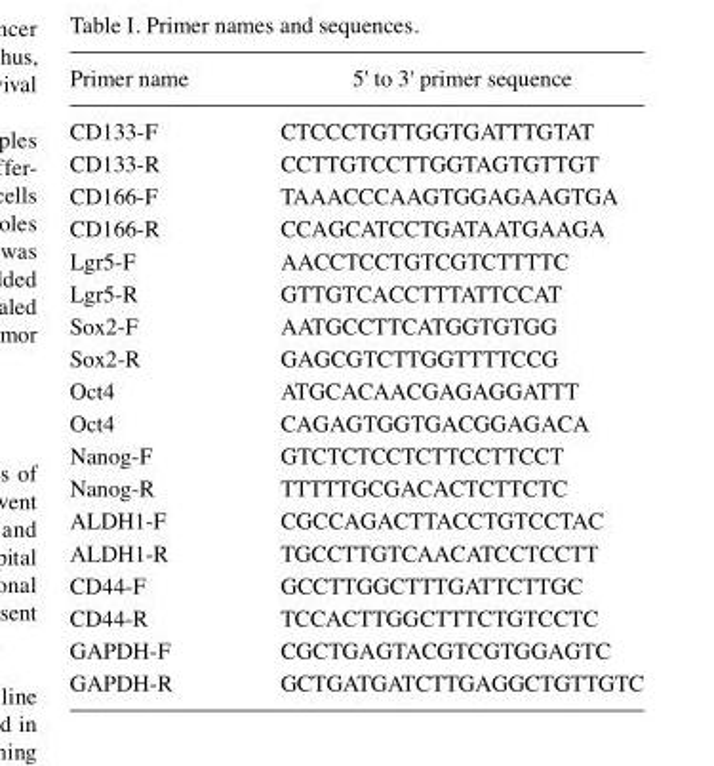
<table><thead><tr><td>Primer name</td><td>5&#x27; to 3&#x27; primer sequence</td></tr></thead><tbody><tr><td>CD133-F</td><td>CTCCCTGTTGGTGATTTGTAT</td></tr><tr><td>CD133-R</td><td>CCTTGTCCTTGGTAGTGTTGT</td></tr><tr><td>CD166-F</td><td>TAAACCCAAGTGGAGAAGTGA</td></tr><tr><td>CD166-R</td><td>CCAGCATCCTGATAATGAAGA</td></tr><tr><td>Lgr5-F</td><td>AACCTCCTGTCGTCTTTTC</td></tr><tr><td>Lgr5-R</td><td>GTTGTCACCTTTATTCCAT</td></tr><tr><td>Sox2-F</td><td>AATGCCTTCATGGTGTGG</td></tr><tr><td>Sox2-R</td><td>GAGCGTCTTGGTTTTCCG</td></tr><tr><td>Oct4</td><td>ATGCACAACGAGAGGATTT</td></tr><tr><td>Oct4</td><td>CAGAGTGGTGACGGAGACA</td></tr><tr><td>Nanog-F</td><td>GTCTCTCCTCTTCCTTCCT</td></tr><tr><td>Nanog-R</td><td>TTTTTGCGACACTCTTCTC</td></tr><tr><td>ALDH1-F</td><td>CGCCAGACTTACCTGTCCTAC</td></tr><tr><td>ALDH1-R</td><td>TGCCTTGTCAACATCCTCCTT</td></tr><tr><td>CD44-F</td><td>GCCTTGGCTTTGATTCTTGC</td></tr><tr><td>CD44-R</td><td>TCCACTTGGCTTTCTGTCCTC</td></tr><tr><td>GAPDH-F</td><td>CGCTGAGTACGTCGTGGAGTC</td></tr><tr><td>GAPDH-R</td><td>GCTGATGATCTTGAGGCTGTTGTC</td></tr></tbody></table>